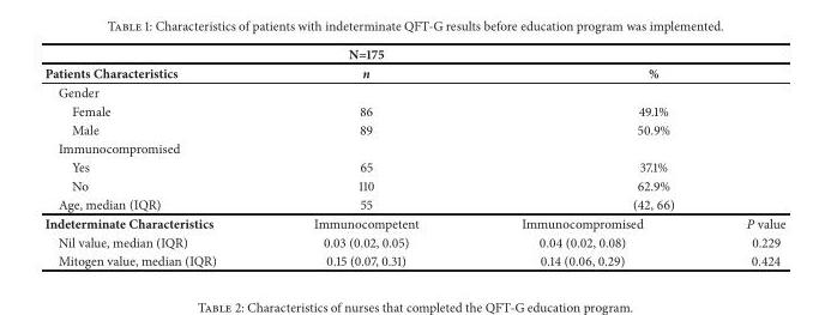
<table><thead><tr><td></td><td>N=175</td><td></td><td></td></tr></thead><tbody><tr><td>Patients Characteristics</td><td>n</td><td colspan="2">%</td></tr><tr><td colspan="4">Gender</td></tr><tr><td>Female</td><td>86</td><td colspan="2">49.1%</td></tr><tr><td>Male</td><td>89</td><td colspan="2">50.9%</td></tr><tr><td colspan="4">Immunocompromised</td></tr><tr><td>Yes</td><td>65</td><td colspan="2">37.1%</td></tr><tr><td>No</td><td>110</td><td colspan="2">62.9%</td></tr><tr><td>Age, median (IQR)</td><td>55</td><td colspan="2">(42, 66)</td></tr><tr><td>Indeterminate Characteristics</td><td>Immunocompetent</td><td>Immunocompromised</td><td>P value</td></tr><tr><td>Nil value, median (IQR)</td><td>0.03 (0.02, 0.05)</td><td>0.04 (0.02, 0.08)</td><td>0.229</td></tr><tr><td>Mitogen value, median (IQR)</td><td>0.15 (0.07, 0.31)</td><td>0.14 (0.06, 0.29)</td><td>0.424</td></tr></tbody></table>